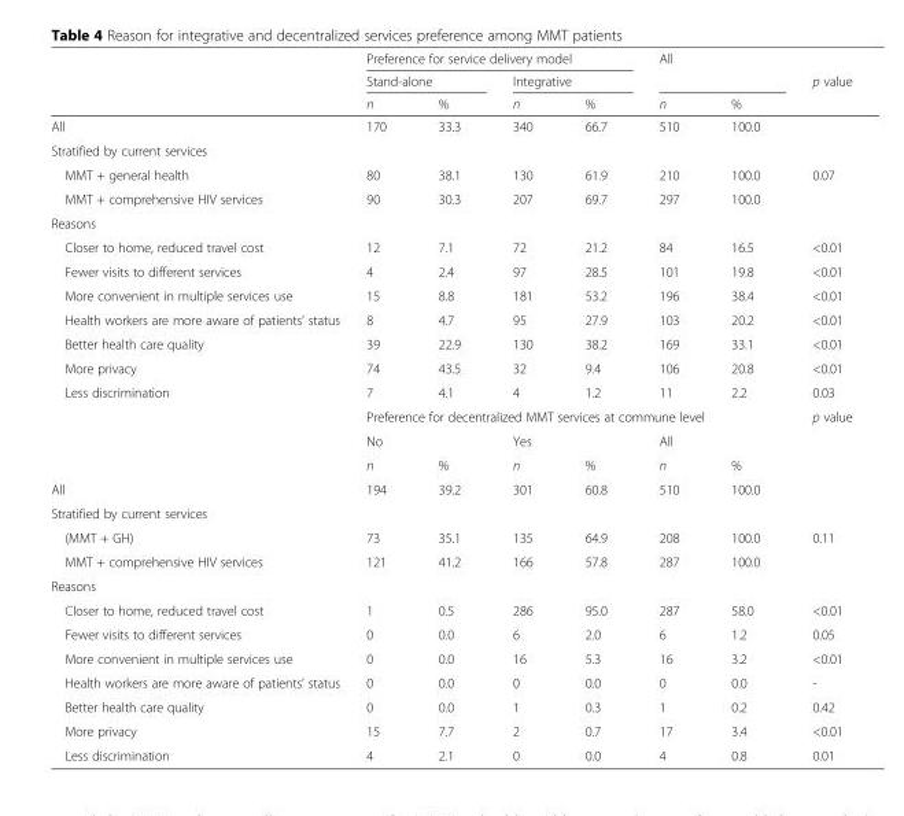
<table><thead><tr><td rowspan="3"></td><td colspan="4">Preference for service delivery model</td><td rowspan="2" colspan="2">All</td><td rowspan="3">p value</td></tr><tr><td colspan="2">Stand-alone</td><td colspan="2">Integrative</td></tr><tr><td>n</td><td>%</td><td>n</td><td>%</td><td>n</td><td>%</td></tr></thead><tbody><tr><td>All</td><td>170</td><td>33.3</td><td>340</td><td>66.7</td><td>510</td><td>100.0</td><td></td></tr><tr><td colspan="8">Stratified by current services</td></tr><tr><td>MMT + general health</td><td>80</td><td>38.1</td><td>130</td><td>61.9</td><td>210</td><td>100.0</td><td>0.07</td></tr><tr><td>MMT + comprehensive HIV services</td><td>90</td><td>30.3</td><td>207</td><td>69.7</td><td>297</td><td>100.0</td><td></td></tr><tr><td colspan="8">Reasons</td></tr><tr><td>Closer to home, reduced travel cost</td><td>12</td><td>7.1</td><td>72</td><td>21.2</td><td>84</td><td>16.5</td><td>&lt;0.01</td></tr><tr><td>Fewer visits to different services</td><td>4</td><td>2.4</td><td>97</td><td>28.5</td><td>101</td><td>19.8</td><td>&lt;0.01</td></tr><tr><td>More convenient in multiple services use</td><td>15</td><td>8.8</td><td>181</td><td>53.2</td><td>196</td><td>38.4</td><td>&lt;0.01</td></tr><tr><td>Health workers are more aware of patients’ status</td><td>8</td><td>4.7</td><td>95</td><td>27.9</td><td>103</td><td>20.2</td><td>&lt;0.01</td></tr><tr><td>Better health care quality</td><td>39</td><td>22.9</td><td>130</td><td>38.2</td><td>169</td><td>33.1</td><td>&lt;0.01</td></tr><tr><td>More privacy</td><td>74</td><td>43.5</td><td>32</td><td>9.4</td><td>106</td><td>20.8</td><td>&lt;0.01</td></tr><tr><td rowspan="4">Less discrimination</td><td>7</td><td>4.1</td><td>4</td><td>1.2</td><td>11</td><td>2.2</td><td>0.03</td></tr><tr><td colspan="6">Preference for decentralized MMT services at commune level</td><td>p value</td></tr><tr><td>No</td><td></td><td>Yes</td><td></td><td colspan="3">All</td></tr><tr><td>n</td><td>%</td><td>n</td><td>%</td><td>n</td><td colspan="2">%</td></tr><tr><td>All</td><td>194</td><td>39.2</td><td>301</td><td>60.8</td><td>510</td><td>100.0</td><td></td></tr><tr><td colspan="8">Stratified by current services</td></tr><tr><td>(MMT + GH)</td><td>73</td><td>35.1</td><td>135</td><td>64.9</td><td>208</td><td>100.0</td><td>0.11</td></tr><tr><td>MMT + comprehensive HIV services</td><td>121</td><td>41.2</td><td>166</td><td>57.8</td><td>287</td><td>100.0</td><td></td></tr><tr><td colspan="8">Reasons</td></tr><tr><td>Closer to home, reduced travel cost</td><td>1</td><td>0.5</td><td>286</td><td>95.0</td><td>287</td><td>58.0</td><td>&lt;0.01</td></tr><tr><td>Fewer visits to different services</td><td>0</td><td>0.0</td><td>6</td><td>2.0</td><td>6</td><td>1.2</td><td>0.05</td></tr><tr><td>More convenient in multiple services use</td><td>0</td><td>0.0</td><td>16</td><td>5.3</td><td>16</td><td>3.2</td><td>&lt;0.01</td></tr><tr><td>Health workers are more aware of patients’ status</td><td>0</td><td>0.0</td><td>0</td><td>0.0</td><td>0</td><td>0.0</td><td>-</td></tr><tr><td>Better health care quality</td><td>0</td><td>0.0</td><td>1</td><td>0.3</td><td>1</td><td>0.2</td><td>0.42</td></tr><tr><td>More privacy</td><td>15</td><td>7.7</td><td>2</td><td>0.7</td><td>17</td><td>3.4</td><td>&lt;0.01</td></tr><tr><td>Less discrimination</td><td>4</td><td>2.1</td><td>0</td><td>0.0</td><td>4</td><td>0.8</td><td>0.01</td></tr></tbody></table>